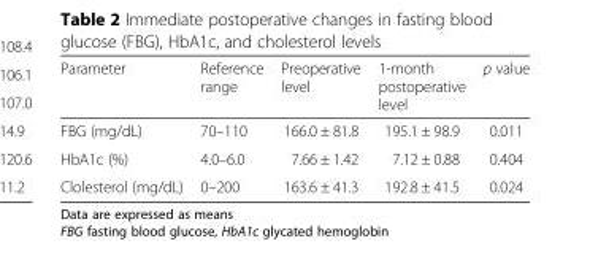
<table><thead><tr><td>Parameter</td><td>Reference range</td><td>Preoperative level</td><td>1-month postoperative level</td><td>p value</td></tr></thead><tbody><tr><td>FBG (mg/dL)</td><td>70–110</td><td>166.0 ± 81.8</td><td>195.1 ± 98.9</td><td>0.011</td></tr><tr><td>HbA1c (%)</td><td>4.0–6.0</td><td>7.66 ± 1.42</td><td>7.12 ± 0.88</td><td>0.404</td></tr><tr><td>Clolesterol (mg/dL)</td><td>0–200</td><td>163.6 ± 41.3</td><td>192.8 ± 41.5</td><td>0.024</td></tr></tbody></table>